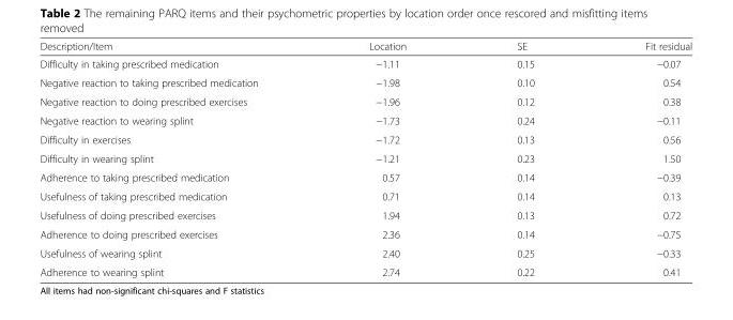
<table><thead><tr><td>Description/Item</td><td>Location</td><td>SE</td><td>Fit residual</td></tr></thead><tbody><tr><td>Difficulty in taking prescribed medication</td><td>−1.11</td><td>0.15</td><td>−0.07</td></tr><tr><td>Negative reaction to taking prescribed medication</td><td>−1.98</td><td>0.10</td><td>0.54</td></tr><tr><td>Negative reaction to doing prescribed exercises</td><td>−1.96</td><td>0.12</td><td>0.38</td></tr><tr><td>Negative reaction to wearing splint</td><td>−1.73</td><td>0.24</td><td>−0.11</td></tr><tr><td>Difficulty in exercises</td><td>−1.72</td><td>0.13</td><td>0.56</td></tr><tr><td>Difficulty in wearing splint</td><td>−1.21</td><td>0.23</td><td>1.50</td></tr><tr><td>Adherence to taking prescribed medication</td><td>0.57</td><td>0.14</td><td>−0.39</td></tr><tr><td>Usefulness of taking prescribed medication</td><td>0.71</td><td>0.14</td><td>0.13</td></tr><tr><td>Usefulness of doing prescribed exercises</td><td>1.94</td><td>0.13</td><td>0.72</td></tr><tr><td>Adherence to doing prescribed exercises</td><td>2.36</td><td>0.14</td><td>−0.75</td></tr><tr><td>Usefulness of wearing splint</td><td>2.40</td><td>0.25</td><td>−0.33</td></tr><tr><td>Adherence to wearing splint</td><td>2.74</td><td>0.22</td><td>0.41</td></tr></tbody></table>